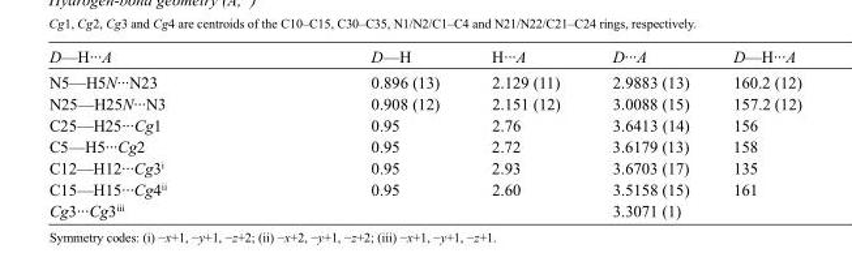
<table><tbody><tr><td>D—H···A</td><td>D—H</td><td>H···A</td><td>D···A</td><td>D—H···A</td></tr><tr><td>N5—H5N···N23</td><td>0.896 (13)</td><td>2.129 (11)</td><td>2.9883 (13)</td><td>160.2 (12)</td></tr><tr><td>N25—H25N···N3</td><td>0.908 (12)</td><td>2.151 (12)</td><td>3.0088 (15)</td><td>157.2 (12)</td></tr><tr><td>C25—H25···Cg1</td><td>0.95</td><td>2.76</td><td>3.6413 (14)</td><td>156</td></tr><tr><td>C5—H5···Cg2</td><td>0.95</td><td>2.72</td><td>3.6179 (13)</td><td>158</td></tr><tr><td>C12—H12···Cg3<sup>i</sup></td><td>0.95</td><td>2.93</td><td>3.6703 (17)</td><td>135</td></tr><tr><td>C15—H15···Cg4<sup>ii</sup></td><td>0.95</td><td>2.60</td><td>3.5158 (15)</td><td>161</td></tr><tr><td>Cg3···Cg3<sup>iii</sup></td><td></td><td></td><td>3.3071 (1)</td><td></td></tr></tbody></table>